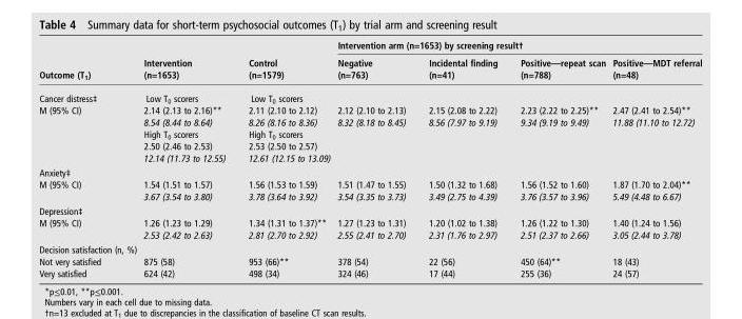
<table><thead><tr><td rowspan="2">Outcome (T<sub>1</sub>)</td><td rowspan="2">Intervention (n=1653)</td><td rowspan="2">Control (n=1579)</td><td colspan="4">Intervention arm (n=1653) by screening result†</td></tr><tr><td>Negative (n=763)</td><td>Incidental finding (n=41)</td><td>Positive—repeat scan (n=788)</td><td>Positive—MDT referral (n=48)</td></tr></thead><tbody><tr><td rowspan="2">Cancer distress‡ M (95% CI)</td><td>Low T<sub>0</sub> scorers 2.14 (2.13 to 2.16)** 8.54 (8.44 to 8.64)</td><td>Low T<sub>0</sub> scorers 2.11 (2.10 to 2.12) 8.26 (8.16 to 8.36)</td><td rowspan="2">2.12 (2.10 to 2.13) 8.32 (8.18 to 8.45)</td><td rowspan="2">2.15 (2.08 to 2.22) 8.56 (7.97 to 9.19)</td><td rowspan="2">2.23 (2.22 to 2.25)** 9.34 (9.19 to 9.49)</td><td rowspan="2">2.47 (2.41 to 2.54)** 11.88 (11.10 to 12.72)</td></tr><tr><td>High T<sub>0</sub> scorers 2.50 (2.46 to 2.53) 12.14 (11.73 to 12.55)</td><td>High T<sub>0</sub> scorers 2.53 (2.50 to 2.57) 12.61 (12.15 to 13.09)</td></tr><tr><td>Anxiety‡ M (95% CI)</td><td>1.54 (1.51 to 1.57) 3.67 (3.54 to 3.80)</td><td>1.56 (1.53 to 1.59) 3.78 (3.64 to 3.92)</td><td>1.51 (1.47 to 1.55) 3.54 (3.35 to 3.73)</td><td>1.50 (1.32 to 1.68) 3.49 (2.75 to 4.39)</td><td>1.56 (1.52 to 1.60) 3.76 (3.57 to 3.96)</td><td>1.87 (1.70 to 2.04)** 5.49 (4.48 to 6.67)</td></tr><tr><td>Depression‡ M (95% CI)</td><td>1.26 (1.23 to 1.29) 2.53 (2.42 to 2.63)</td><td>1.34 (1.31 to 1.37)** 2.81 (2.70 to 2.92)</td><td>1.27 (1.23 to 1.31) 2.55 (2.41 to 2.70)</td><td>1.20 (1.02 to 1.38) 2.31 (1.76 to 2.97)</td><td>1.26 (1.22 to 1.30) 2.51 (2.37 to 2.66)</td><td>1.40 (1.24 to 1.56) 3.05 (2.44 to 3.78)</td></tr><tr><td>Decision satisfaction (n, %) Not very satisfied Very satisfied</td><td>875 (58) 624 (42)</td><td>953 (66)** 498 (34)</td><td>378 (54) 324 (46)</td><td>22 (56) 17 (44)</td><td>450 (64)** 255 (36)</td><td>18 (43) 24 (57)</td></tr></tbody></table>